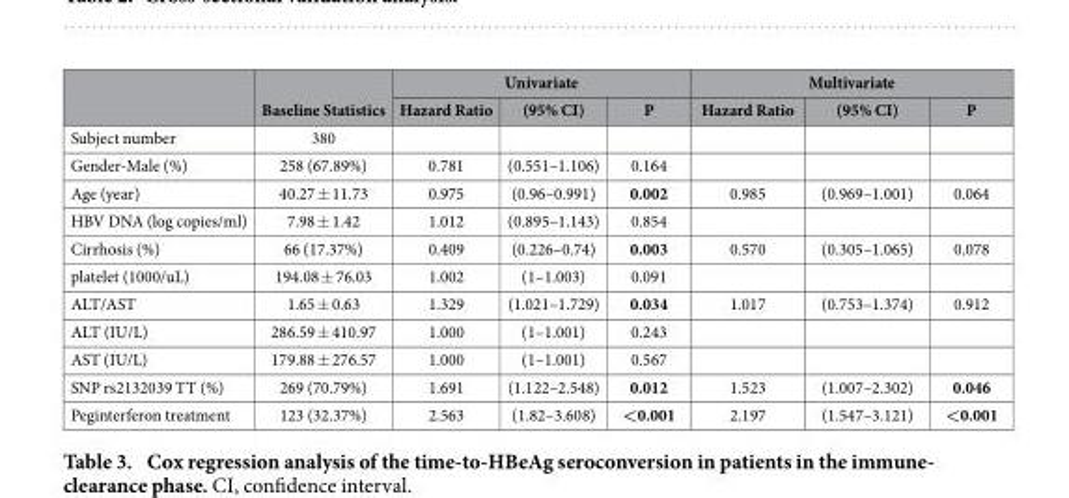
<table><thead><tr><td rowspan="2"></td><td rowspan="2">Baseline Statistics</td><td colspan="3">Univariate</td><td colspan="3">Multivariate</td></tr><tr><td>Hazard Ratio</td><td>(95% CI)</td><td>P</td><td>Hazard Ratio</td><td>(95% CI)</td><td>P</td></tr></thead><tbody><tr><td>Subject number</td><td>380</td><td></td><td></td><td></td><td></td><td></td><td></td></tr><tr><td>Gender-Male (%)</td><td>258 (67.89%)</td><td>0.781</td><td>(0.551–1.106)</td><td>0.164</td><td></td><td></td><td></td></tr><tr><td>Age (year)</td><td>40.27 ± 11.73</td><td>0.975</td><td>(0.96–0.991)</td><td>0.002</td><td>0.985</td><td>(0.969–1.001)</td><td>0.064</td></tr><tr><td>HBV DNA (log copies/ml)</td><td>7.98 ± 1.42</td><td>1.012</td><td>(0.895–1.143)</td><td>0.854</td><td></td><td></td><td></td></tr><tr><td>Cirrhosis (%)</td><td>66 (17.37%)</td><td>0.409</td><td>(0.226–0.74)</td><td>0.003</td><td>0.570</td><td>(0.305–1.065)</td><td>0.078</td></tr><tr><td>platelet (1000/uL)</td><td>194.08 ± 76.03</td><td>1.002</td><td>(1–1.003)</td><td>0.091</td><td></td><td></td><td></td></tr><tr><td>ALT/AST</td><td>1.65 ± 0.63</td><td>1.329</td><td>(1.021–1.729)</td><td>0.034</td><td>1.017</td><td>(0.753–1.374)</td><td>0.912</td></tr><tr><td>ALT (IU/L)</td><td>286.59 ± 410.97</td><td>1.000</td><td>(1–1.001)</td><td>0.243</td><td></td><td></td><td></td></tr><tr><td>AST (IU/L)</td><td>179.88 ± 276.57</td><td>1.000</td><td>(1–1.001)</td><td>0.567</td><td></td><td></td><td></td></tr><tr><td>SNP rs2132039 TT (%)</td><td>269 (70.79%)</td><td>1.691</td><td>(1.122–2.548)</td><td>0.012</td><td>1.523</td><td>(1.007–2.302)</td><td>0.046</td></tr><tr><td>Peginterferon treatment</td><td>123 (32.37%)</td><td>2.563</td><td>(1.82–3.608)</td><td>&lt;0.001</td><td>2.197</td><td>(1.547–3.121)</td><td>&lt;0.001</td></tr></tbody></table>